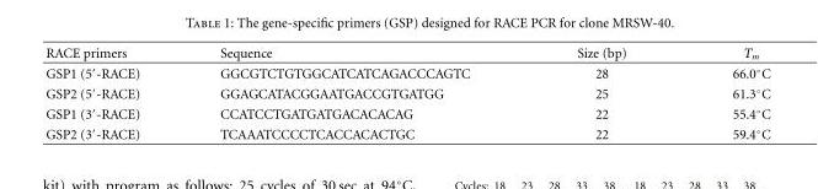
<table><thead><tr><td>RACE primers</td><td>Sequence</td><td>Size (bp)</td><td>T<sub>m</sub></td></tr></thead><tbody><tr><td>GSP1 (5′-RACE)</td><td>GGCGTCTGTGGCATCATCAGACCCAGTC</td><td>28</td><td>66.0◦C</td></tr><tr><td>GSP2 (5′-RACE)</td><td>GGAGCATACGGAATGACCGTGATGG</td><td>25</td><td>61.3◦C</td></tr><tr><td>GSP1 (3′-RACE)</td><td>CCATCCTGATGATGACACACAG</td><td>22</td><td>55.4◦C</td></tr><tr><td>GSP2 (3′-RACE)</td><td>TCAAATCCCCTCACCACACTGC</td><td>22</td><td>59.4◦C</td></tr></tbody></table>